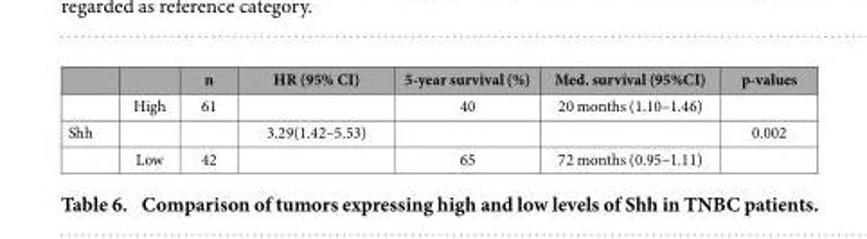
<table><thead><tr><td></td><td></td><td>n</td><td>HR (95% CI)</td><td>5-year survival (%)</td><td>Med. survival (95%CI)</td><td>p-values</td></tr></thead><tbody><tr><td></td><td>High</td><td>61</td><td></td><td>40</td><td>20 months (1.10–1.46)</td><td></td></tr><tr><td rowspan="2">Shh</td><td></td><td></td><td>3.29(1.42–5.53)</td><td></td><td></td><td>0.002</td></tr><tr><td>Low</td><td>42</td><td></td><td>65</td><td>72 months (0.95–1.11)</td><td></td></tr></tbody></table>